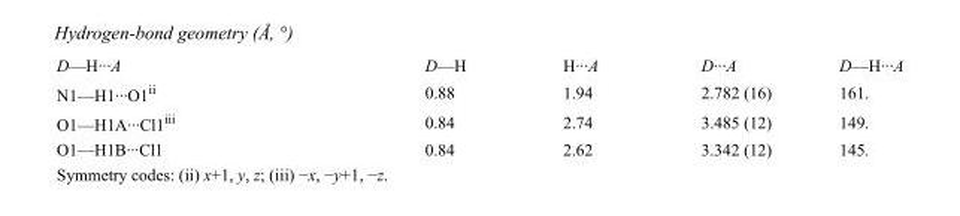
<table><tbody><tr><td>D—H···A</td><td>D—H</td><td>H···A</td><td>D···A</td><td>D—H···A</td></tr><tr><td>N1—H1···O1<sup>ii</sup></td><td>0.88</td><td>1.94</td><td>2.782 (16)</td><td>161.</td></tr><tr><td>O1—H1A···Cl1<sup>iii</sup></td><td>0.84</td><td>2.74</td><td>3.485 (12)</td><td>149.</td></tr><tr><td>O1—H1B···Cl1</td><td>0.84</td><td>2.62</td><td>3.342 (12)</td><td>145.</td></tr></tbody></table>